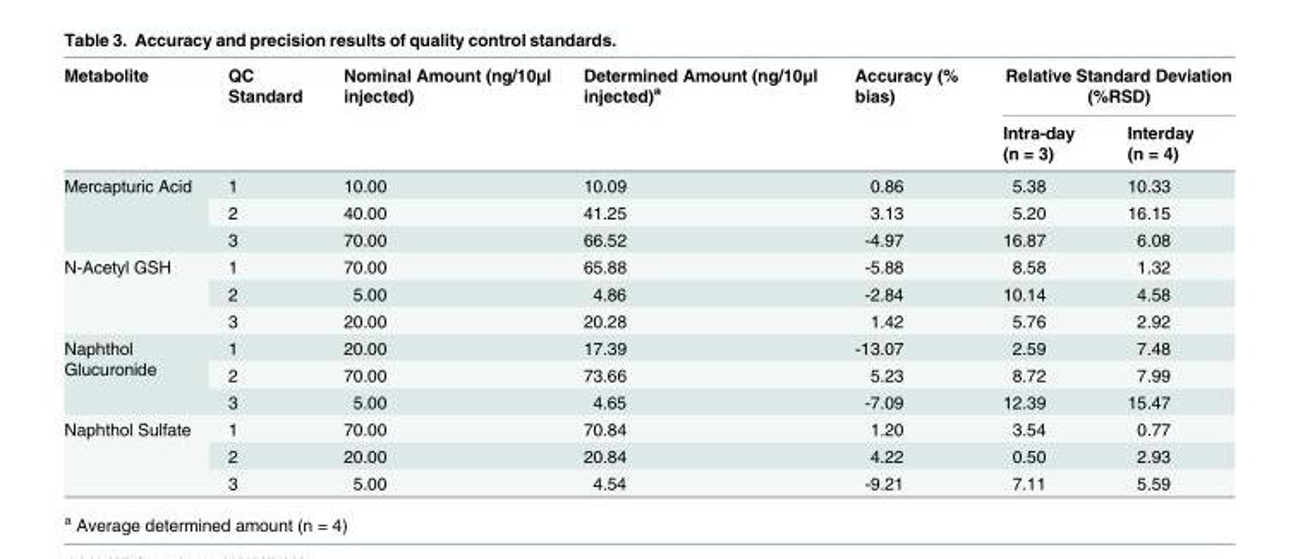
<table><thead><tr><td rowspan="2">Metabolite</td><td rowspan="2">QC Standard</td><td rowspan="2">Nominal Amount (ng/10μl injected)</td><td rowspan="2">Determined Amount (ng/10μl injected)<sup>a</sup></td><td rowspan="2">Accuracy (% bias)</td><td colspan="2">Relative Standard Deviation (%RSD)</td></tr><tr><td>Intra-day (n = 3)</td><td>Interday (n = 4)</td></tr></thead><tbody><tr><td rowspan="3">Mercapturic Acid</td><td>1</td><td>10.00</td><td>10.09</td><td>0.86</td><td>5.38</td><td>10.33</td></tr><tr><td>2</td><td>40.00</td><td>41.25</td><td>3.13</td><td>5.20</td><td>16.15</td></tr><tr><td>3</td><td>70.00</td><td>66.52</td><td>-4.97</td><td>16.87</td><td>6.08</td></tr><tr><td rowspan="3">N-Acetyl GSH</td><td>1</td><td>70.00</td><td>65.88</td><td>-5.88</td><td>8.58</td><td>1.32</td></tr><tr><td>2</td><td>5.00</td><td>4.86</td><td>-2.84</td><td>10.14</td><td>4.58</td></tr><tr><td>3</td><td>20.00</td><td>20.28</td><td>1.42</td><td>5.76</td><td>2.92</td></tr><tr><td rowspan="3">Naphthol Glucuronide</td><td>1</td><td>20.00</td><td>17.39</td><td>-13.07</td><td>2.59</td><td>7.48</td></tr><tr><td>2</td><td>70.00</td><td>73.66</td><td>5.23</td><td>8.72</td><td>7.99</td></tr><tr><td>3</td><td>5.00</td><td>4.65</td><td>-7.09</td><td>12.39</td><td>15.47</td></tr><tr><td rowspan="3">Naphthol Sulfate</td><td>1</td><td>70.00</td><td>70.84</td><td>1.20</td><td>3.54</td><td>0.77</td></tr><tr><td>2</td><td>20.00</td><td>20.84</td><td>4.22</td><td>0.50</td><td>2.93</td></tr><tr><td>3</td><td>5.00</td><td>4.54</td><td>-9.21</td><td>7.11</td><td>5.59</td></tr></tbody></table>